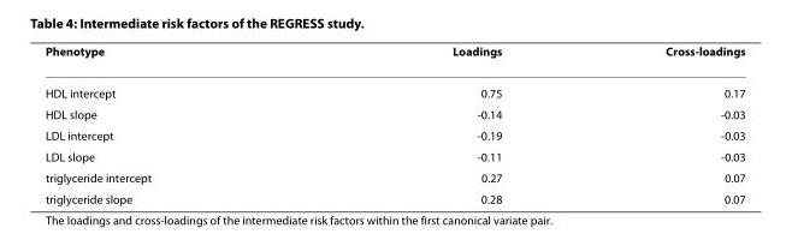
<table><thead><tr><td>Phenotype</td><td>Loadings</td><td>Cross-loadings</td></tr></thead><tbody><tr><td>HDL intercept</td><td>0.75</td><td>0.17</td></tr><tr><td>HDL slope</td><td>-0.14</td><td>-0.03</td></tr><tr><td>LDL intercept</td><td>-0.19</td><td>-0.03</td></tr><tr><td>LDL slope</td><td>-0.11</td><td>-0.03</td></tr><tr><td>triglyceride intercept</td><td>0.27</td><td>0.07</td></tr><tr><td>triglyceride slope</td><td>0.28</td><td>0.07</td></tr></tbody></table>